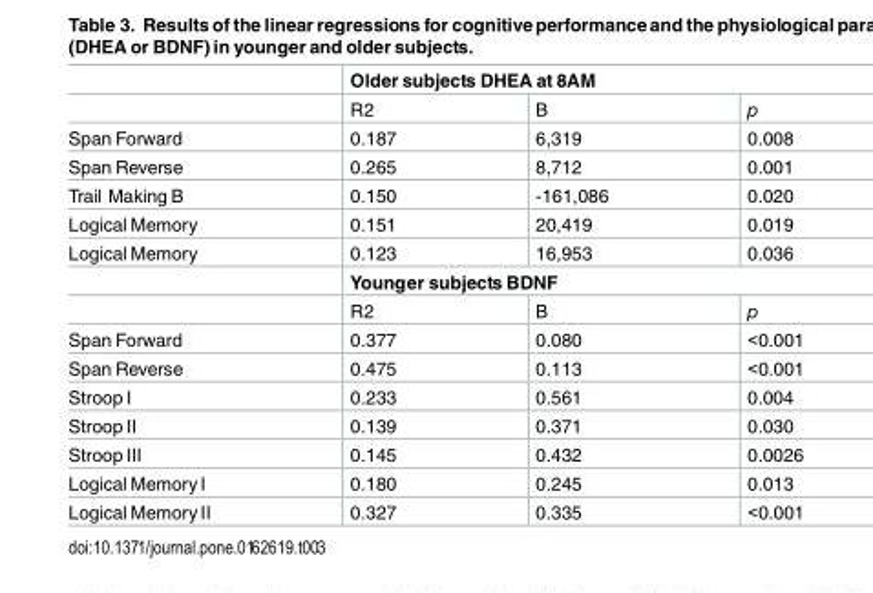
<table><thead><tr><td rowspan="2"></td><td colspan="3">Older subjects DHEA at 8AM</td></tr><tr><td>R2</td><td>B</td><td>p</td></tr></thead><tbody><tr><td>Span Forward</td><td>0.187</td><td>6,319</td><td>0.008</td></tr><tr><td>Span Reverse</td><td>0.265</td><td>8,712</td><td>0.001</td></tr><tr><td>Trail Making B</td><td>0.150</td><td>-161,086</td><td>0.020</td></tr><tr><td>Logical Memory</td><td>0.151</td><td>20,419</td><td>0.019</td></tr><tr><td rowspan="3">Logical Memory</td><td>0.123</td><td>16,953</td><td>0.036</td></tr><tr><td colspan="3">Younger subjects BDNF</td></tr><tr><td>R2</td><td>B</td><td>p</td></tr><tr><td>Span Forward</td><td>0.377</td><td>0.080</td><td>&lt;0.001</td></tr><tr><td>Span Reverse</td><td>0.475</td><td>0.113</td><td>&lt;0.001</td></tr><tr><td>Stroop I</td><td>0.233</td><td>0.561</td><td>0.004</td></tr><tr><td>Stroop II</td><td>0.139</td><td>0.371</td><td>0.030</td></tr><tr><td>Stroop III</td><td>0.145</td><td>0.432</td><td>0.0026</td></tr><tr><td>Logical Memory I</td><td>0.180</td><td>0.245</td><td>0.013</td></tr><tr><td>Logical Memory II</td><td>0.327</td><td>0.335</td><td>&lt;0.001</td></tr></tbody></table>